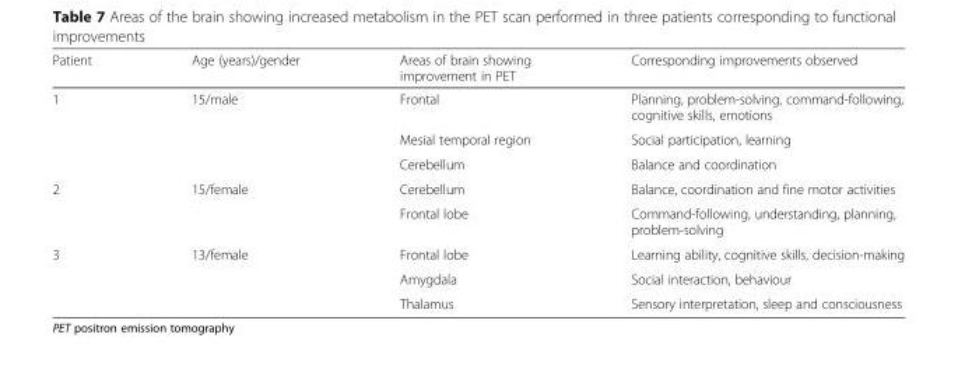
<table><thead><tr><td>Patient</td><td>Age (years)/gender</td><td>Areas of brain showing improvement in PET</td><td>Corresponding improvements observed</td></tr></thead><tbody><tr><td rowspan="3">1</td><td rowspan="3">15/male</td><td>Frontal</td><td>Planning, problem-solving, command-following, cognitive skills, emotions</td></tr><tr><td>Mesial temporal region</td><td>Social participation, learning</td></tr><tr><td>Cerebellum</td><td>Balance and coordination</td></tr><tr><td rowspan="2">2</td><td rowspan="2">15/female</td><td>Cerebellum</td><td>Balance, coordination and fine motor activities</td></tr><tr><td>Frontal lobe</td><td>Command-following, understanding, planning, problem-solving</td></tr><tr><td rowspan="3">3</td><td rowspan="3">13/female</td><td>Frontal lobe</td><td>Learning ability, cognitive skills, decision-making</td></tr><tr><td>Amygdala</td><td>Social interaction, behaviour</td></tr><tr><td>Thalamus</td><td>Sensory interpretation, sleep and consciousness</td></tr></tbody></table>